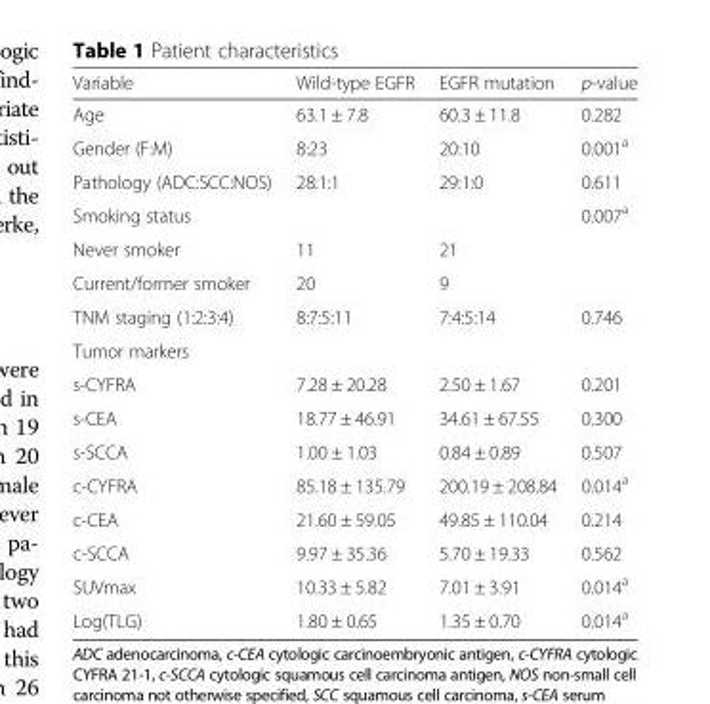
<table><thead><tr><td>Variable</td><td>Wild-type EGFR</td><td>EGFR mutation</td><td>p-value</td></tr></thead><tbody><tr><td>Age</td><td>63.1 ± 7.8</td><td>60.3 ± 11.8</td><td>0.282</td></tr><tr><td>Gender (F:M)</td><td>8:23</td><td>20:10</td><td>0.001<sup>a</sup></td></tr><tr><td>Pathology (ADC:SCC:NOS)</td><td>28:1:1</td><td>29:1:0</td><td>0.611</td></tr><tr><td>Smoking status</td><td></td><td></td><td>0.007<sup>a</sup></td></tr><tr><td>Never smoker</td><td>11</td><td>21</td><td></td></tr><tr><td>Current/former smoker</td><td>20</td><td>9</td><td></td></tr><tr><td>TNM staging (1:2:3:4)</td><td>8:7:5:11</td><td>7:4:5:14</td><td>0.746</td></tr><tr><td colspan="4">Tumor markers</td></tr><tr><td>s-CYFRA</td><td>7.28 ± 20.28</td><td>2.50 ± 1.67</td><td>0.201</td></tr><tr><td>s-CEA</td><td>18.77 ± 46.91</td><td>34.61 ± 67.55</td><td>0.300</td></tr><tr><td>s-SCCA</td><td>1.00 ± 1.03</td><td>0.84 ± 0.89</td><td>0.507</td></tr><tr><td>c-CYFRA</td><td>85.18 ± 135.79</td><td>200.19 ± 208.84</td><td>0.014<sup>a</sup></td></tr><tr><td>c-CEA</td><td>21.60 ± 59.05</td><td>49.85 ± 110.04</td><td>0.214</td></tr><tr><td>c-SCCA</td><td>9.97 ± 35.36</td><td>5.70 ± 19.33</td><td>0.562</td></tr><tr><td>SUVmax</td><td>10.33 ± 5.82</td><td>7.01 ± 3.91</td><td>0.014<sup>a</sup></td></tr><tr><td>Log(TLG)</td><td>1.80 ± 0.65</td><td>1.35 ± 0.70</td><td>0.014<sup>a</sup></td></tr></tbody></table>